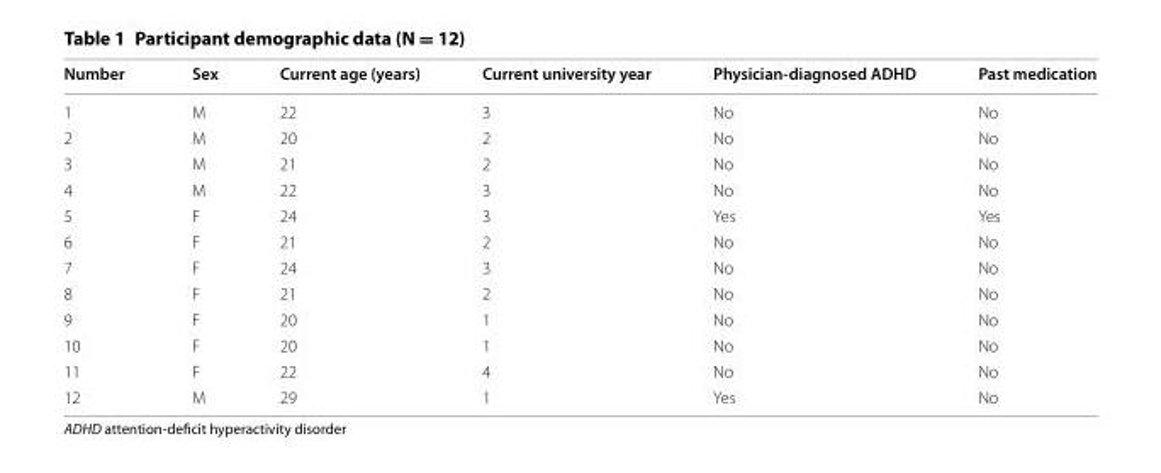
<table><thead><tr><td>Number</td><td>Sex</td><td>Current age (years)</td><td>Current university year</td><td>Physician-diagnosed ADHD</td><td>Past medication</td></tr></thead><tbody><tr><td>1</td><td>M</td><td>22</td><td>3</td><td>No</td><td>No</td></tr><tr><td>2</td><td>M</td><td>20</td><td>2</td><td>No</td><td>No</td></tr><tr><td>3</td><td>M</td><td>21</td><td>2</td><td>No</td><td>No</td></tr><tr><td>4</td><td>M</td><td>22</td><td>3</td><td>No</td><td>No</td></tr><tr><td>5</td><td>F</td><td>24</td><td>3</td><td>Yes</td><td>Yes</td></tr><tr><td>6</td><td>F</td><td>21</td><td>2</td><td>No</td><td>No</td></tr><tr><td>7</td><td>F</td><td>24</td><td>3</td><td>No</td><td>No</td></tr><tr><td>8</td><td>F</td><td>21</td><td>2</td><td>No</td><td>No</td></tr><tr><td>9</td><td>F</td><td>20</td><td>1</td><td>No</td><td>No</td></tr><tr><td>10</td><td>F</td><td>20</td><td>1</td><td>No</td><td>No</td></tr><tr><td>11</td><td>F</td><td>22</td><td>4</td><td>No</td><td>No</td></tr><tr><td>12</td><td>M</td><td>29</td><td>1</td><td>Yes</td><td>No</td></tr></tbody></table>